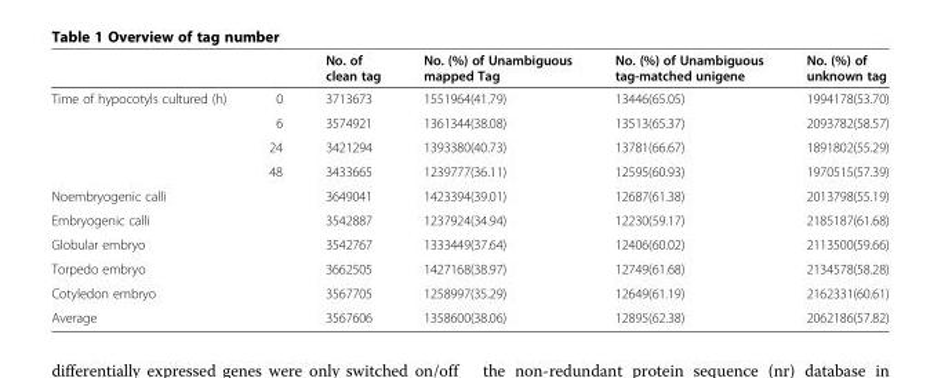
<table><thead><tr><td></td><td></td><td>No. of clean tag</td><td>No. (%) of Unambiguous mapped Tag</td><td>No. (%) of Unambiguous tag-matched unigene</td><td>No. (%) of unknown tag</td></tr></thead><tbody><tr><td rowspan="4">Time of hypocotyls cultured (h)</td><td>0</td><td>3713673</td><td>1551964(41.79)</td><td>13446(65.05)</td><td>1994178(53.70)</td></tr><tr><td>6</td><td>3574921</td><td>1361344(38.08)</td><td>13513(65.37)</td><td>2093782(58.57)</td></tr><tr><td>24</td><td>3421294</td><td>1393380(40.73)</td><td>13781(66.67)</td><td>1891802(55.29)</td></tr><tr><td>48</td><td>3433665</td><td>1239777(36.11)</td><td>12595(60.93)</td><td>1970515(57.39)</td></tr><tr><td colspan="2">Noembryogenic calli</td><td>3649041</td><td>1423394(39.01)</td><td>12687(61.38)</td><td>2013798(55.19)</td></tr><tr><td colspan="2">Embryogenic calli</td><td>3542887</td><td>1237924(34.94)</td><td>12230(59.17)</td><td>2185187(61.68)</td></tr><tr><td colspan="2">Globular embryo</td><td>3542767</td><td>1333449(37.64)</td><td>12406(60.02)</td><td>2113500(59.66)</td></tr><tr><td colspan="2">Torpedo embryo</td><td>3662505</td><td>1427168(38.97)</td><td>12749(61.68)</td><td>2134578(58.28)</td></tr><tr><td colspan="2">Cotyledon embryo</td><td>3567705</td><td>1258997(35.29)</td><td>12649(61.19)</td><td>2162331(60.61)</td></tr><tr><td colspan="2">Average</td><td>3567606</td><td>1358600(38.06)</td><td>12895(62.38)</td><td>2062186(57.82)</td></tr></tbody></table>